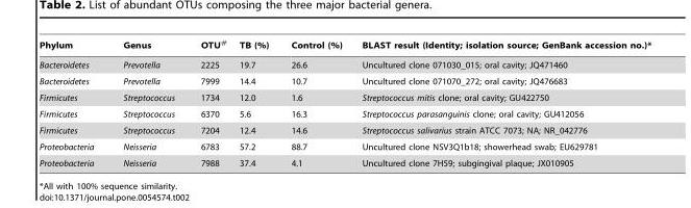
<table><thead><tr><td>Phylum</td><td>Genus</td><td>OTU<sup>#</sup></td><td>TB (%)</td><td>Control (%)</td><td>BLAST result (Identity; isolation source; GenBank accession no.)*</td></tr></thead><tbody><tr><td>Bacteroidetes</td><td>Prevotella</td><td>2225</td><td>19.7</td><td>26.6</td><td>Uncultured clone 071030_015; oral cavity; JQ471460</td></tr><tr><td>Bacteroidetes</td><td>Prevotella</td><td>7999</td><td>14.4</td><td>10.7</td><td>Uncultured clone 071070_272; oral cavity; JQ476683</td></tr><tr><td>Firmicutes</td><td>Streptococcus</td><td>1734</td><td>12.0</td><td>1.6</td><td>Streptococcus mitis clone; oral cavity; GU422750</td></tr><tr><td>Firmicutes</td><td>Streptococcus</td><td>6370</td><td>5.6</td><td>16.3</td><td>Streptococcus parasanguinis clone; oral cavity; GU412056</td></tr><tr><td>Firmicutes</td><td>Streptococcus</td><td>7204</td><td>12.4</td><td>14.6</td><td>Streptococcus salivarius strain ATCC 7073; NA; NR_042776</td></tr><tr><td>Proteobacteria</td><td>Neisseria</td><td>6783</td><td>57.2</td><td>88.7</td><td>Uncultured clone NSV3Q1b18; showerhead swab; EU629781</td></tr><tr><td>Proteobacteria</td><td>Neisseria</td><td>7988</td><td>37.4</td><td>4.1</td><td>Uncultured clone 7H59; subgingival plaque; JX010905</td></tr></tbody></table>